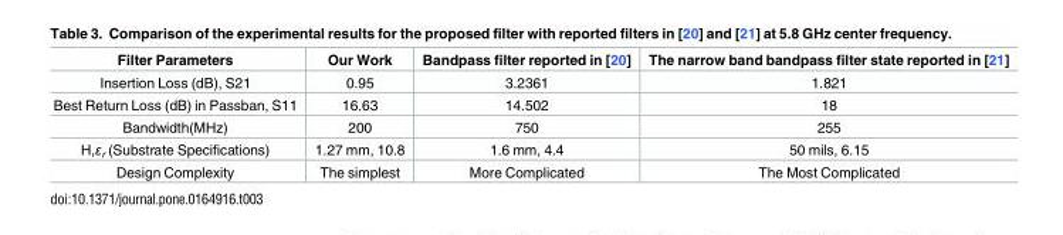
<table><thead><tr><td>Filter Parameters</td><td>Our Work</td><td>Bandpass filter reported in [20]</td><td>The narrow band bandpass filter state reported in [21]</td></tr></thead><tbody><tr><td>Insertion Loss (dB), S21</td><td>0.95</td><td>3.2361</td><td>1.821</td></tr><tr><td>Best Return Loss (dB) in Passban, S11</td><td>16.63</td><td>14.502</td><td>18</td></tr><tr><td>Bandwidth(MHz)</td><td>200</td><td>750</td><td>255</td></tr><tr><td>H,ε<sub>r</sub> (Substrate Specifications)</td><td>1.27 mm, 10.8</td><td>1.6 mm, 4.4</td><td>50 mils, 6.15</td></tr><tr><td>Design Complexity</td><td>The simplest</td><td>More Complicated</td><td>The Most Complicated</td></tr></tbody></table>